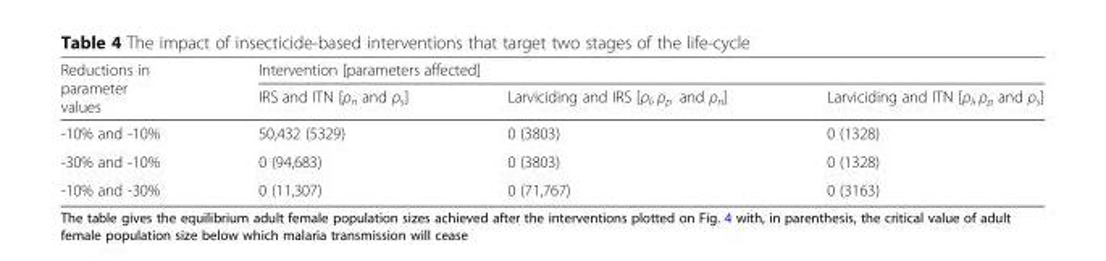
<table><thead><tr><td rowspan="2">Reductions in parameter values</td><td colspan="3">Intervention [parameters affected]</td></tr><tr><td>IRS and ITN [ρ<sub>n</sub> and ρ<sub>s</sub>]</td><td>Larviciding and IRS [ρ<sub>l</sub>, ρ<sub>p</sub> and ρ<sub>n</sub>]</td><td>Larviciding and ITN [ρ<sub>l</sub>, ρ<sub>p</sub> and ρ<sub>s</sub>]</td></tr></thead><tbody><tr><td>-10% and -10%</td><td>50,432 (5329)</td><td>0 (3803)</td><td>0 (1328)</td></tr><tr><td>-30% and -10%</td><td>0 (94,683)</td><td>0 (3803)</td><td>0 (1328)</td></tr><tr><td>-10% and -30%</td><td>0 (11,307)</td><td>0 (71,767)</td><td>0 (3163)</td></tr></tbody></table>